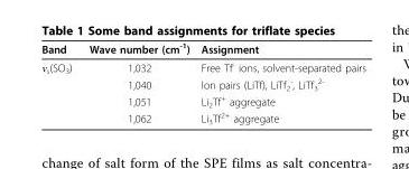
<table><thead><tr><td>Band</td><td>Wave number (cm<sup>-1</sup>)</td><td>Assignment</td></tr></thead><tbody><tr><td rowspan="4">ν<sub>s</sub>(SO<sub>3</sub>)</td><td>1,032</td><td>Free Tf<sup>-</sup> ions, solvent-separated pairs</td></tr><tr><td>1,040</td><td>Ion pairs (LiTf), LiTf<sub>2</sub> <sup>-</sup>, LiTf<sub>3</sub> <sup>2-</sup></td></tr><tr><td>1,051</td><td>Li<sub>2</sub>Tf<sup>+</sup> aggregate</td></tr><tr><td>1,062</td><td>Li<sub>3</sub>Tf<sup>2+</sup> aggregate</td></tr></tbody></table>